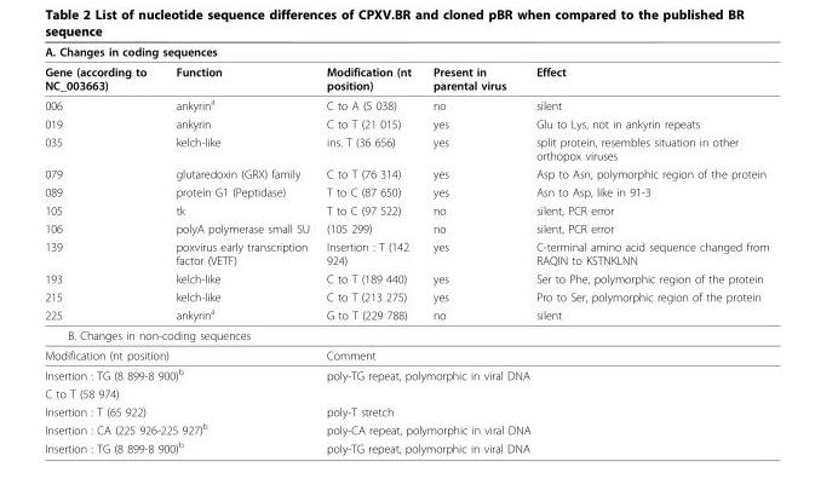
<table><thead><tr><td colspan="5">A. Changes in coding sequences</td></tr><tr><td>Gene (according to NC_003663)</td><td>Function</td><td>Modification (nt position)</td><td>Present in parental virus</td><td>Effect</td></tr></thead><tbody><tr><td>006</td><td>ankyrin<sup>a</sup></td><td>C to A (5 038)</td><td>no</td><td>silent</td></tr><tr><td>019</td><td>ankyrin</td><td>C to T (21 015)</td><td>yes</td><td>Glu to Lys, not in ankyrin repeats</td></tr><tr><td>035</td><td>kelch-like</td><td>ins. T (36 656)</td><td>yes</td><td>split protein, resembles situation in other orthopox viruses</td></tr><tr><td>079</td><td>glutaredoxin (GRX) family</td><td>C to T (76 314)</td><td>yes</td><td>Asp to Asn, polymorphic region of the protein</td></tr><tr><td>089</td><td>protein G1 (Peptidase)</td><td>T to C (87 650)</td><td>yes</td><td>Asn to Asp, like in 91-3</td></tr><tr><td>105</td><td>tk</td><td>T to C (97 522)</td><td>no</td><td>silent, PCR error</td></tr><tr><td>106</td><td>polyA polymerase small SU</td><td>(105 299)</td><td>no</td><td>silent, PCR error</td></tr><tr><td>139</td><td>poxvirus early transcription factor (VETF)</td><td>Insertion : T (142 924)</td><td>yes</td><td>C-terminal amino acid sequence changed from RAQIN to KSTNKLNN</td></tr><tr><td>193</td><td>kelch-like</td><td>C to T (189 440)</td><td>yes</td><td>Ser to Phe, polymorphic region of the protein</td></tr><tr><td>215</td><td>kelch-like</td><td>C to T (213 275)</td><td>yes</td><td>Pro to Ser, polymorphic region of the protein</td></tr><tr><td>225</td><td>ankyrin<sup>a</sup></td><td>G to T (229 788)</td><td>no</td><td>silent</td></tr><tr><td colspan="5">B. Changes in non-coding sequences</td></tr><tr><td colspan="2">Modification (nt position)</td><td colspan="3">Comment</td></tr><tr><td colspan="2">Insertion : TG (8 899-8 900)<sup>b</sup></td><td colspan="3">poly-TG repeat, polymorphic in viral DNA</td></tr><tr><td colspan="5">C to T (58 974)</td></tr><tr><td colspan="2">Insertion : T (65 922)</td><td colspan="3">poly-T stretch</td></tr><tr><td colspan="2">Insertion : CA (225 926-225 927)<sup>b</sup></td><td colspan="3">poly-CA repeat, polymorphic in viral DNA</td></tr><tr><td colspan="2">Insertion : TG (8 899-8 900)<sup>b</sup></td><td colspan="3">poly-TG repeat, polymorphic in viral DNA</td></tr></tbody></table>